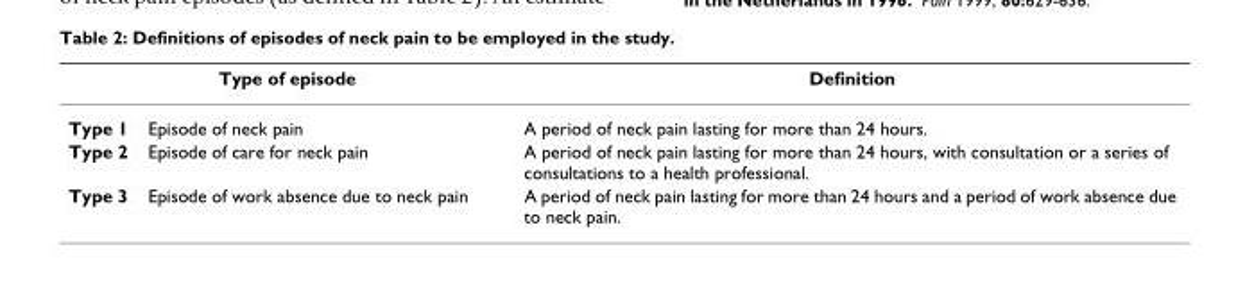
<table><thead><tr><td colspan="2">Type of episode</td><td rowspan="2">Definition A period of neck pain lasting for more than 24 hours.</td></tr><tr><td>Type 1</td><td>Episode of neck pain</td></tr></thead><tbody><tr><td>Type 2</td><td>Episode of care for neck pain</td><td>A period of neck pain lasting for more than 24 hours, with consultation or a series of consultations to a health professional.</td></tr><tr><td>Type 3</td><td>Episode of work absence due to neck pain</td><td>A period of neck pain lasting for more than 24 hours and a period of work absence due to neck pain.</td></tr></tbody></table>